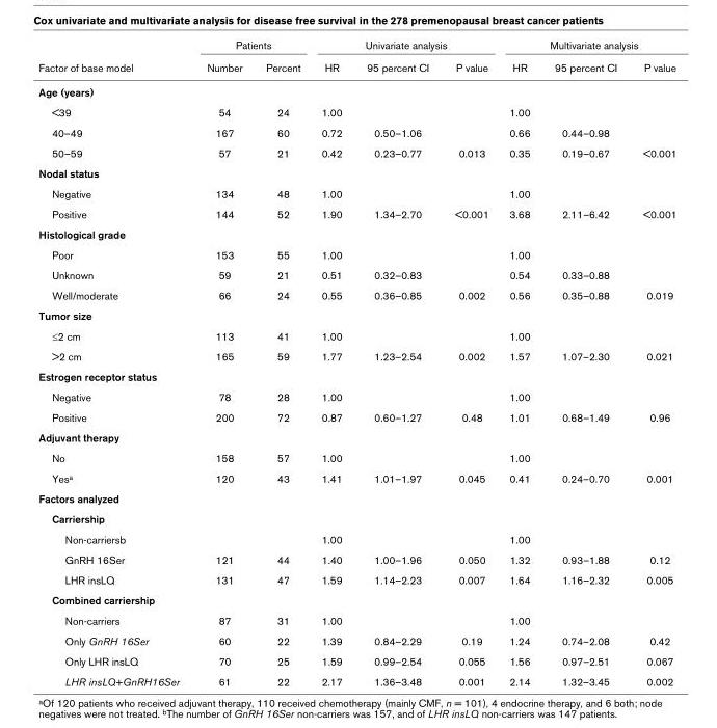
<table><thead><tr><td rowspan="2">Factor of base model</td><td colspan="2">Patients</td><td colspan="3">Univariate analysis</td><td colspan="3">Multivariate analysis</td></tr><tr><td>Number</td><td>Percent</td><td>HR</td><td>95 percent CI</td><td>P value</td><td>HR</td><td>95 percent CI</td><td>P value</td></tr></thead><tbody><tr><td colspan="9">Age (years)</td></tr><tr><td>&lt;39</td><td>54</td><td>24</td><td>1.00</td><td></td><td></td><td>1.00</td><td></td><td></td></tr><tr><td>40–49</td><td>167</td><td>60</td><td>0.72</td><td>0.50–1.06</td><td></td><td>0.66</td><td>0.44–0.98</td><td></td></tr><tr><td>50–59</td><td>57</td><td>21</td><td>0.42</td><td>0.23–0.77</td><td>0.013</td><td>0.35</td><td>0.19–0.67</td><td>&lt;0.001</td></tr><tr><td colspan="9">Nodal status</td></tr><tr><td>Negative</td><td>134</td><td>48</td><td>1.00</td><td></td><td></td><td>1.00</td><td></td><td></td></tr><tr><td>Positive</td><td>144</td><td>52</td><td>1.90</td><td>1.34–2.70</td><td>&lt;0.001</td><td>3.68</td><td>2.11–6.42</td><td>&lt;0.001</td></tr><tr><td colspan="9">Histological grade</td></tr><tr><td>Poor</td><td>153</td><td>55</td><td>1.00</td><td></td><td></td><td>1.00</td><td></td><td></td></tr><tr><td>Unknown</td><td>59</td><td>21</td><td>0.51</td><td>0.32–0.83</td><td></td><td>0.54</td><td>0.33–0.88</td><td></td></tr><tr><td>Well/moderate</td><td>66</td><td>24</td><td>0.55</td><td>0.36–0.85</td><td>0.002</td><td>0.56</td><td>0.35–0.88</td><td>0.019</td></tr><tr><td colspan="9">Tumor size</td></tr><tr><td>≤2 cm</td><td>113</td><td>41</td><td>1.00</td><td></td><td></td><td>1.00</td><td></td><td></td></tr><tr><td>&gt;2 cm</td><td>165</td><td>59</td><td>1.77</td><td>1.23–2.54</td><td>0.002</td><td>1.57</td><td>1.07–2.30</td><td>0.021</td></tr><tr><td colspan="9">Estrogen receptor status</td></tr><tr><td>Negative</td><td>78</td><td>28</td><td>1.00</td><td></td><td></td><td>1.00</td><td></td><td></td></tr><tr><td>Positive</td><td>200</td><td>72</td><td>0.87</td><td>0.60–1.27</td><td>0.48</td><td>1.01</td><td>0.68–1.49</td><td>0.96</td></tr><tr><td colspan="9">Adjuvant therapy</td></tr><tr><td>No</td><td>158</td><td>57</td><td>1.00</td><td></td><td></td><td>1.00</td><td></td><td></td></tr><tr><td>Yes<sup>a</sup></td><td>120</td><td>43</td><td>1.41</td><td>1.01–1.97</td><td>0.045</td><td>0.41</td><td>0.24–0.70</td><td>0.001</td></tr><tr><td colspan="9">Factors analyzed</td></tr><tr><td colspan="9">Carriership</td></tr><tr><td>Non-carriersb</td><td></td><td></td><td>1.00</td><td></td><td></td><td>1.00</td><td></td><td></td></tr><tr><td>GnRH 16Ser</td><td>121</td><td>44</td><td>1.40</td><td>1.00–1.96</td><td>0.050</td><td>1.32</td><td>0.93–1.88</td><td>0.12</td></tr><tr><td>LHR insLQ</td><td>131</td><td>47</td><td>1.59</td><td>1.14–2.23</td><td>0.007</td><td>1.64</td><td>1.16–2.32</td><td>0.005</td></tr><tr><td colspan="9">Combined carriership</td></tr><tr><td>Non-carriers</td><td>87</td><td>31</td><td>1.00</td><td></td><td></td><td>1.00</td><td></td><td></td></tr><tr><td>Only GnRH 16Ser</td><td>60</td><td>22</td><td>1.39</td><td>0.84–2.29</td><td>0.19</td><td>1.24</td><td>0.74–2.08</td><td>0.42</td></tr><tr><td>Only LHR insLQ</td><td>70</td><td>25</td><td>1.59</td><td>0.99–2.54</td><td>0.055</td><td>1.56</td><td>0.97–2.51</td><td>0.067</td></tr><tr><td>LHR insLQ+GnRH16Ser</td><td>61</td><td>22</td><td>2.17</td><td>1.36–3.48</td><td>0.001</td><td>2.14</td><td>1.32–3.45</td><td>0.002</td></tr></tbody></table>